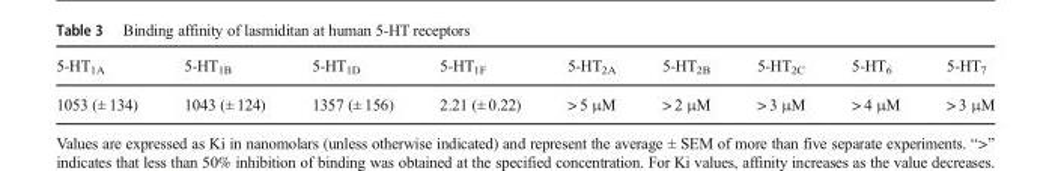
<table><thead><tr><td>5-HT<sub>1A</sub></td><td>5-HT<sub>1B</sub></td><td>5-HT<sub>1D</sub></td><td>5-HT<sub>1F</sub></td><td>5-HT<sub>2A</sub></td><td>5-HT<sub>2B</sub></td><td>5-HT<sub>2C</sub></td><td>5-HT<sub>6</sub></td><td>5-HT<sub>7</sub></td></tr></thead><tbody><tr><td>1053 (± 134)</td><td>1043 (± 124)</td><td>1357 (± 156)</td><td>2.21 (± 0.22)</td><td>&gt; 5 μM</td><td>&gt; 2 μM</td><td>&gt; 3 μM</td><td>&gt; 4 μM</td><td>&gt; 3 μM</td></tr></tbody></table>